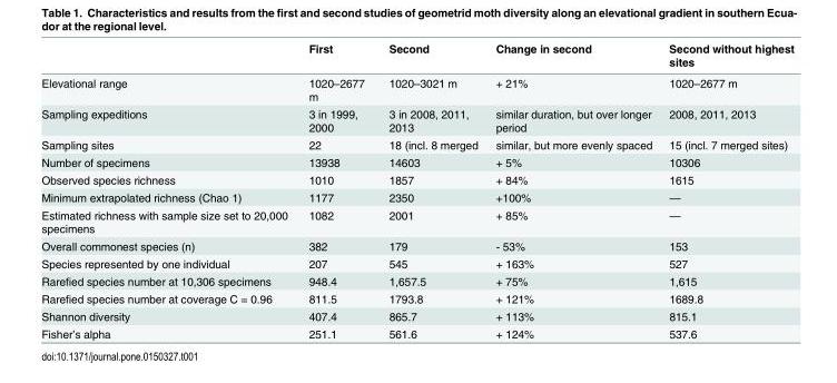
<table><thead><tr><td></td><td>First</td><td>Second</td><td>Change in second</td><td>Second without highest sites</td></tr></thead><tbody><tr><td>Elevational range</td><td>1020–2677 m</td><td>1020–3021 m</td><td>+ 21%</td><td>1020–2677 m</td></tr><tr><td>Sampling expeditions</td><td>3 in 1999, 2000</td><td>3 in 2008, 2011, 2013</td><td>similar duration, but over longer period</td><td>2008, 2011, 2013</td></tr><tr><td>Sampling sites</td><td>22</td><td>18 (incl. 8 merged</td><td>similar, but more evenly spaced</td><td>15 (incl. 7 merged sites)</td></tr><tr><td>Number of specimens</td><td>13938</td><td>14603</td><td>+ 5%</td><td>10306</td></tr><tr><td>Observed species richness</td><td>1010</td><td>1857</td><td>+ 84%</td><td>1615</td></tr><tr><td>Minimum extrapolated richness (Chao 1)</td><td>1177</td><td>2350</td><td>+100%</td><td>—</td></tr><tr><td>Estimated richness with sample size set to 20,000 specimens</td><td>1082</td><td>2001</td><td>+ 85%</td><td>—</td></tr><tr><td>Overall commonest species (n)</td><td>382</td><td>179</td><td>- 53%</td><td>153</td></tr><tr><td>Species represented by one individual</td><td>207</td><td>545</td><td>+ 163%</td><td>527</td></tr><tr><td>Rarefied species number at 10,306 specimens</td><td>948.4</td><td>1,657.5</td><td>+ 75%</td><td>1,615</td></tr><tr><td>Rarefied species number at coverage C = 0.96</td><td>811.5</td><td>1793.8</td><td>+ 121%</td><td>1689.8</td></tr><tr><td>Shannon diversity</td><td>407.4</td><td>865.7</td><td>+ 113%</td><td>815.1</td></tr><tr><td>Fisher’s alpha</td><td>251.1</td><td>561.6</td><td>+ 124%</td><td>537.6</td></tr></tbody></table>